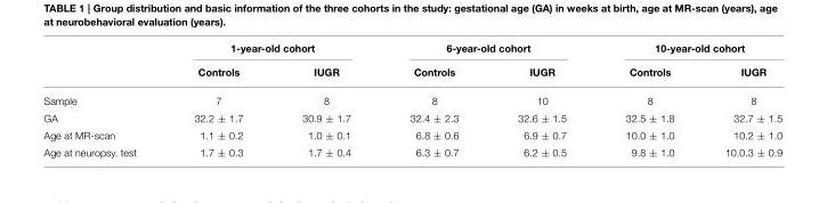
<table><thead><tr><td rowspan="2"></td><td colspan="2">1-year-old cohort</td><td colspan="2">6-year-old cohort</td><td colspan="2">10-year-old cohort</td></tr><tr><td>Controls</td><td>IUGR</td><td>Controls</td><td>IUGR</td><td>Controls</td><td>IUGR</td></tr></thead><tbody><tr><td>Sample</td><td>7</td><td>8</td><td>8</td><td>10</td><td>8</td><td>8</td></tr><tr><td>GA</td><td>32.2 ± 1.7</td><td>30.9 ± 1.7</td><td>32.4 ± 2.3</td><td>32.6 ± 1.5</td><td>32.5 ± 1.8</td><td>32.7 ± 1.5</td></tr><tr><td>Age at MR-scan</td><td>1.1 ± 0.2</td><td>1.0 ± 0.1</td><td>6.8 ± 0.6</td><td>6.9 ± 0.7</td><td>10.0 ± 1.0</td><td>10.2 ± 1.0</td></tr><tr><td>Age at neuropsy. test</td><td>1.7 ± 0.3</td><td>1.7 ± 0.4</td><td>6.3 ± 0.7</td><td>6.2 ± 0.5</td><td>9.8 ± 1.0</td><td>10.0.3 ± 0.9</td></tr></tbody></table>